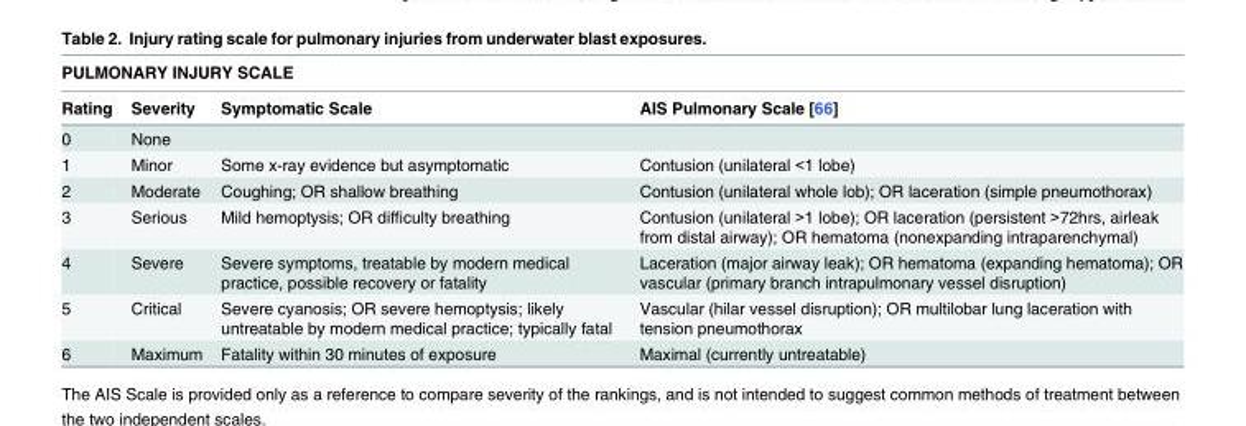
<table><thead><tr><td colspan="4">PULMONARY INJURY SCALE</td></tr><tr><td>Rating</td><td>Severity</td><td>Symptomatic Scale</td><td>AIS Pulmonary Scale [66]</td></tr></thead><tbody><tr><td>0</td><td>None</td><td></td><td></td></tr><tr><td>1</td><td>Minor</td><td>Some x-ray evidence but asymptomatic</td><td>Contusion (unilateral &lt;1 lobe)</td></tr><tr><td>2</td><td>Moderate</td><td>Coughing; OR shallow breathing</td><td>Contusion (unilateral whole lob); OR laceration (simple pneumothorax)</td></tr><tr><td>3</td><td>Serious</td><td>Mild hemoptysis; OR difficulty breathing</td><td>Contusion (unilateral &gt;1 lobe); OR laceration (persistent &gt;72hrs, airleak from distal airway); OR hematoma (nonexpanding intraparenchymal)</td></tr><tr><td>4</td><td>Severe</td><td>Severe symptoms, treatable by modern medical practice, possible recovery or fatality</td><td>Laceration (major airway leak); OR hematoma (expanding hematoma); OR vascular (primary branch intrapulmonary vessel disruption)</td></tr><tr><td>5</td><td>Critical</td><td>Severe cyanosis; OR severe hemoptysis; likely untreatable by modern medical practice; typically fatal</td><td>Vascular (hilar vessel disruption); OR multilobar lung laceration with tension pneumothorax</td></tr><tr><td>6</td><td>Maximum</td><td>Fatality within 30 minutes of exposure</td><td>Maximal (currently untreatable)</td></tr></tbody></table>